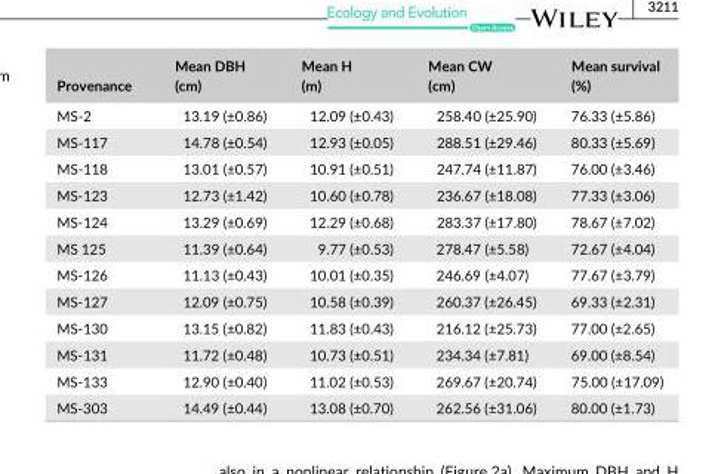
<table><thead><tr><td>Provenance</td><td>Mean DBH (cm)</td><td>Mean H (m)</td><td>Mean CW (cm)</td><td>Mean survival (%)</td></tr></thead><tbody><tr><td>MS- 2</td><td>13.19 (±0.86)</td><td>12.09 (±0.43)</td><td>258.40 (±25.90)</td><td>76.33 (±5.86)</td></tr><tr><td>MS- 117</td><td>14.78 (±0.54)</td><td>12.93 (±0.05)</td><td>288.51 (±29.46)</td><td>80.33 (±5.69)</td></tr><tr><td>MS- 118</td><td>13.01 (±0.57)</td><td>10.91 (±0.51)</td><td>247.74 (±11.87)</td><td>76.00 (±3.46)</td></tr><tr><td>MS- 123</td><td>12.73 (±1.42)</td><td>10.60 (±0.78)</td><td>236.67 (±18.08)</td><td>77.33 (±3.06)</td></tr><tr><td>MS- 124</td><td>13.29 (±0.69)</td><td>12.29 (±0.68)</td><td>283.37 (±17.80)</td><td>78.67 (±7.02)</td></tr><tr><td>MS 125</td><td>11.39 (±0.64)</td><td>9.77 (±0.53)</td><td>278.47 (±5.58)</td><td>72.67 (±4.04)</td></tr><tr><td>MS- 126</td><td>11.13 (±0.43)</td><td>10.01 (±0.35)</td><td>246.69 (±4.07)</td><td>77.67 (±3.79)</td></tr><tr><td>MS- 127</td><td>12.09 (±0.75)</td><td>10.58 (±0.39)</td><td>260.37 (±26.45)</td><td>69.33 (±2.31)</td></tr><tr><td>MS- 130</td><td>13.15 (±0.82)</td><td>11.83 (±0.43)</td><td>216.12 (±25.73)</td><td>77.00 (±2.65)</td></tr><tr><td>MS- 131</td><td>11.72 (±0.48)</td><td>10.73 (±0.51)</td><td>234.34 (±7.81)</td><td>69.00 (±8.54)</td></tr><tr><td>MS- 133</td><td>12.90 (±0.40)</td><td>11.02 (±0.53)</td><td>269.67 (±20.74)</td><td>75.00 (±17.09)</td></tr><tr><td>MS- 303</td><td>14.49 (±0.44)</td><td>13.08 (±0.70)</td><td>262.56 (±31.06)</td><td>80.00 (±1.73)</td></tr></tbody></table>